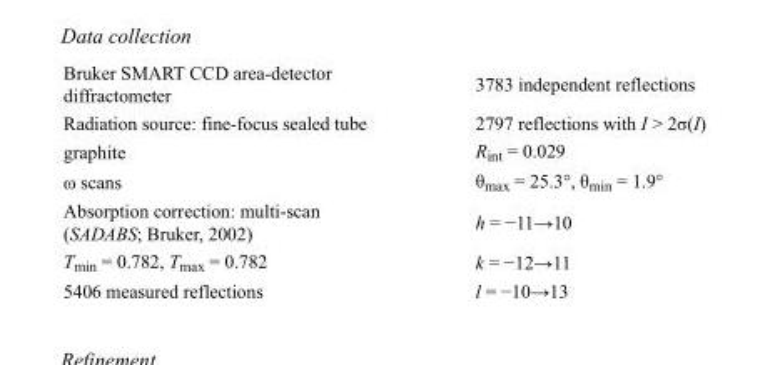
<table><tbody><tr><td>Bruker SMART CCD area-detector diffractometer</td><td>3783 independent reflections</td></tr><tr><td>Radiation source: fine-focus sealed tube</td><td>2797 reflections with I &gt; 2σ(I)</td></tr><tr><td>graphite</td><td>R<sub>int</sub> = 0.029</td></tr><tr><td>ω scans</td><td>θ<sub>max</sub> = 25.3°, θ<sub>min</sub> = 1.9°</td></tr><tr><td>Absorption correction: multi-scan (SADABS; Bruker, 2002)</td><td>h = −11→10</td></tr><tr><td>T<sub>min</sub> = 0.782, T<sub>max</sub> = 0.782</td><td>k = −12→11</td></tr><tr><td>5406 measured reflections</td><td>l = −10→13</td></tr></tbody></table>